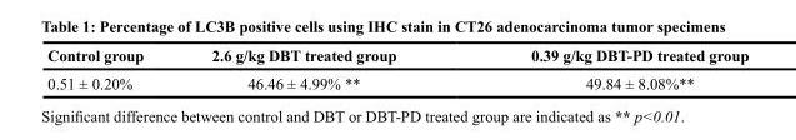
<table><thead><tr><td>Control group</td><td>2.6 g/kg DBT treated group</td><td>0.39 g/kg DBT-PD treated group</td></tr></thead><tbody><tr><td>0.51 ± 0.20%</td><td>46.46 ± 4.99% **</td><td>49.84 ± 8.08%**</td></tr></tbody></table>